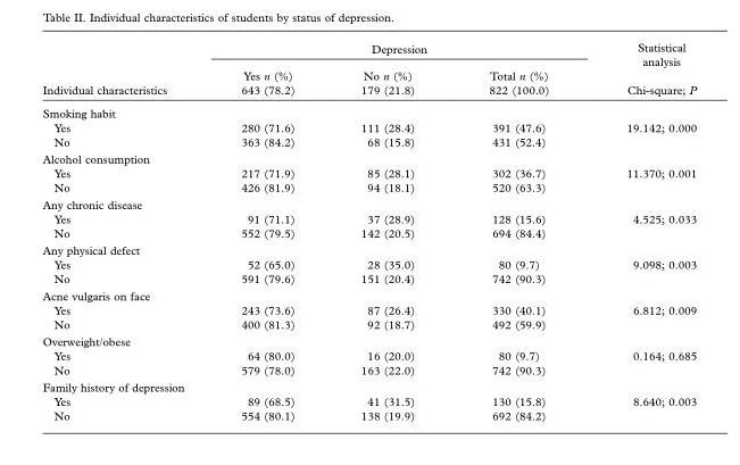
<table><thead><tr><td rowspan="2">Individual characteristics</td><td colspan="3">Depression</td><td rowspan="2">Statistical analysis Chi-square; P</td></tr><tr><td>Yes n (%) 643 (78.2)</td><td>No n (%) 179 (21.8)</td><td>Total n (%) 822 (100.0)</td></tr></thead><tbody><tr><td colspan="5">Smoking habit</td></tr><tr><td>Yes</td><td>280 (71.6)</td><td>111 (28.4)</td><td>391 (47.6)</td><td>19.142; 0.000</td></tr><tr><td>No</td><td>363 (84.2)</td><td>68 (15.8)</td><td>431 (52.4)</td><td></td></tr><tr><td colspan="5">Alcohol consumption</td></tr><tr><td>Yes</td><td>217 (71.9)</td><td>85 (28.1)</td><td>302 (36.7)</td><td>11.370; 0.001</td></tr><tr><td>No</td><td>426 (81.9)</td><td>94 (18.1)</td><td>520 (63.3)</td><td></td></tr><tr><td colspan="5">Any chronic disease</td></tr><tr><td>Yes</td><td>91 (71.1)</td><td>37 (28.9)</td><td>128 (15.6)</td><td>4.525; 0.033</td></tr><tr><td>No</td><td>552 (79.5)</td><td>142 (20.5)</td><td>694 (84.4)</td><td></td></tr><tr><td colspan="5">Any physical defect</td></tr><tr><td>Yes</td><td>52 (65.0)</td><td>28 (35.0)</td><td>80 (9.7)</td><td>9.098; 0.003</td></tr><tr><td>No</td><td>591 (79.6)</td><td>151 (20.4)</td><td>742 (90.3)</td><td></td></tr><tr><td colspan="5">Acne vulgaris on face</td></tr><tr><td>Yes</td><td>243 (73.6)</td><td>87 (26.4)</td><td>330 (40.1)</td><td>6.812; 0.009</td></tr><tr><td>No</td><td>400 (81.3)</td><td>92 (18.7)</td><td>492 (59.9)</td><td></td></tr><tr><td colspan="5">Overweight/obese</td></tr><tr><td>Yes</td><td>64 (80.0)</td><td>16 (20.0)</td><td>80 (9.7)</td><td>0.164; 0.685</td></tr><tr><td>No</td><td>579 (78.0)</td><td>163 (22.0)</td><td>742 (90.3)</td><td></td></tr><tr><td colspan="5">Family history of depression</td></tr><tr><td>Yes</td><td>89 (68.5)</td><td>41 (31.5)</td><td>130 (15.8)</td><td>8.640; 0.003</td></tr><tr><td>No</td><td>554 (80.1)</td><td>138 (19.9)</td><td>692 (84.2)</td><td></td></tr></tbody></table>